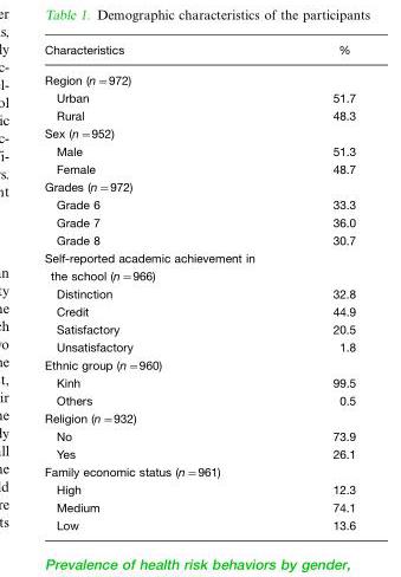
<table><thead><tr><td>Characteristics</td><td>%</td></tr><tr><td colspan="2">Region (n=972)</td></tr></thead><tbody><tr><td>Urban</td><td>51.7</td></tr><tr><td>Rural</td><td>48.3</td></tr><tr><td colspan="2">Sex (n=952)</td></tr><tr><td>Male</td><td>51.3</td></tr><tr><td>Female</td><td>48.7</td></tr><tr><td colspan="2">Grades (n=972)</td></tr><tr><td>Grade 6</td><td>33.3</td></tr><tr><td>Grade 7</td><td>36.0</td></tr><tr><td>Grade 8</td><td>30.7</td></tr><tr><td colspan="2">Self-reported academic achievement in the school (n=966)</td></tr><tr><td>Distinction</td><td>32.8</td></tr><tr><td>Credit</td><td>44.9</td></tr><tr><td>Satisfactory</td><td>20.5</td></tr><tr><td>Unsatisfactory</td><td>1.8</td></tr><tr><td colspan="2">Ethnic group (n=960)</td></tr><tr><td>Kinh</td><td>99.5</td></tr><tr><td>Others</td><td>0.5</td></tr><tr><td colspan="2">Religion (n=932)</td></tr><tr><td>No</td><td>73.9</td></tr><tr><td>Yes</td><td>26.1</td></tr><tr><td colspan="2">Family economic status (n=961)</td></tr><tr><td>High</td><td>12.3</td></tr><tr><td>Medium</td><td>74.1</td></tr><tr><td>Low</td><td>13.6</td></tr></tbody></table>